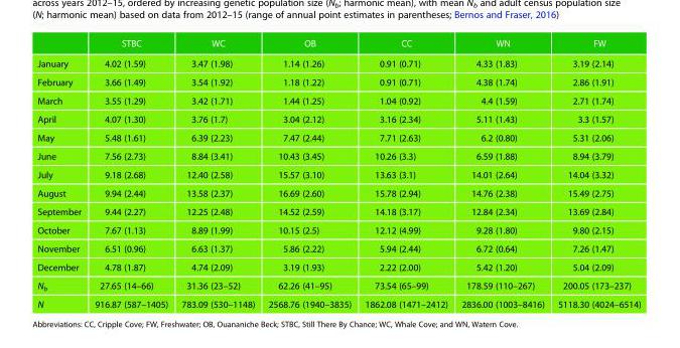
<table><thead><tr><td></td><td>STBC</td><td>WC</td><td>OB</td><td>CC</td><td>WN</td><td>FW</td></tr></thead><tbody><tr><td>January</td><td>4.02 (1.59)</td><td>3.47 (1.98)</td><td>1.14 (1.26)</td><td>0.91 (0.71)</td><td>4.33 (1.83)</td><td>3.19 (2.14)</td></tr><tr><td>February</td><td>3.66 (1.49)</td><td>3.54 (1.92)</td><td>1.18 (1.22)</td><td>0.91 (0.71)</td><td>4.38 (1.74)</td><td>2.86 (1.91)</td></tr><tr><td>March</td><td>3.55 (1.29)</td><td>3.42 (1.71)</td><td>1.44 (1.25)</td><td>1.04 (0.92)</td><td>4.4 (1.59)</td><td>2.71 (1.74)</td></tr><tr><td>April</td><td>4.07 (1.30)</td><td>3.76 (1.7)</td><td>3.04 (2.12)</td><td>3.16 (2.34)</td><td>5.11 (1.43)</td><td>3.3 (1.57)</td></tr><tr><td>May</td><td>5.48 (1.61)</td><td>6.39 (2.23)</td><td>7.47 (2.44)</td><td>7.71 (2.63)</td><td>6.2 (0.80)</td><td>5.31 (2.06)</td></tr><tr><td>June</td><td>7.56 (2.73)</td><td>8.84 (3.41)</td><td>10.43 (3.45)</td><td>10.26 (3.3)</td><td>6.59 (1.88)</td><td>8.94 (3.79)</td></tr><tr><td>July</td><td>9.18 (2.68)</td><td>12.40 (2.58)</td><td>15.57 (3.10)</td><td>13.63 (3.1)</td><td>14.01 (2.64)</td><td>14.04 (3.32)</td></tr><tr><td>August</td><td>9.94 (2.44)</td><td>13.58 (2.37)</td><td>16.69 (2.60)</td><td>15.78 (2.94)</td><td>14.76 (2.38)</td><td>15.49 (2.75)</td></tr><tr><td>September</td><td>9.44 (2.27)</td><td>12.25 (2.48)</td><td>14.52 (2.59)</td><td>14.18 (3.17)</td><td>12.84 (2.34)</td><td>13.69 (2.84)</td></tr><tr><td>October</td><td>7.67 (1.13)</td><td>8.89 (1.99)</td><td>10.15 (2.5)</td><td>12.12 (4.99)</td><td>9.28 (1.80)</td><td>9.80 (2.15)</td></tr><tr><td>November</td><td>6.51 (0.96)</td><td>6.63 (1.37)</td><td>5.86 (2.22)</td><td>5.94 (2.44)</td><td>6.72 (0.64)</td><td>7.26 (1.47)</td></tr><tr><td>December</td><td>4.78 (1.87)</td><td>4.74 (2.09)</td><td>3.19 (1.93)</td><td>2.22 (2.00)</td><td>5.42 (1.20)</td><td>5.04 (2.09)</td></tr><tr><td>N<sub>b</sub></td><td>27.65 (14–66)</td><td>31.36 (23–52)</td><td>62.26 (41–95)</td><td>73.54 (65–99)</td><td>178.59 (110–267)</td><td>200.05 (173–237)</td></tr><tr><td>N</td><td>916.87 (587–1405)</td><td>783.09 (530–1148)</td><td>2568.76 (1940–3835)</td><td>1862.08 (1471–2412)</td><td>2836.00 (1003–8416)</td><td>5118.30 (4024–6514)</td></tr></tbody></table>